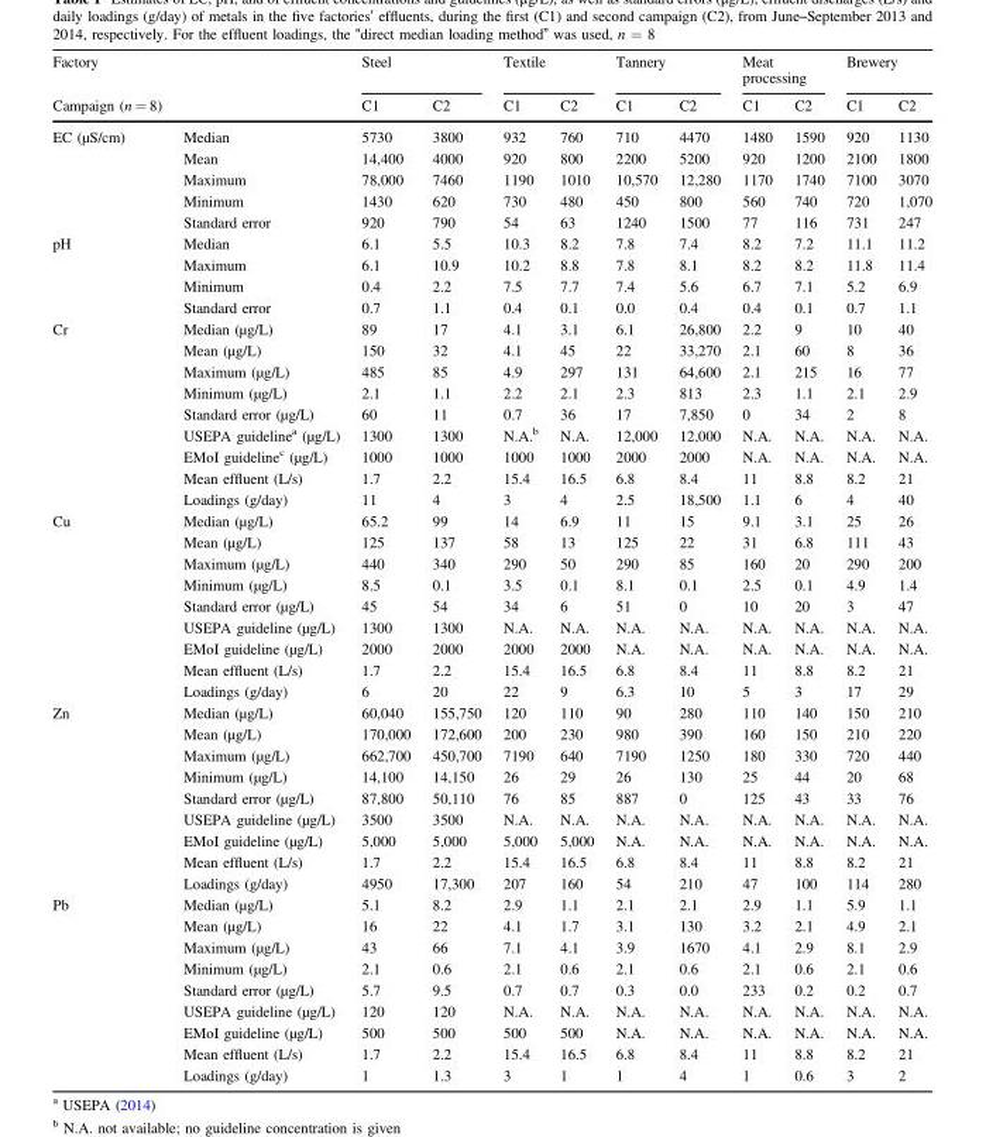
<table><thead><tr><td rowspan="2">Factory Campaign (n = 8)</td><td rowspan="2"></td><td colspan="2">Steel</td><td colspan="2">Textile</td><td colspan="2">Tannery</td><td colspan="2">Meat processing</td><td colspan="2">Brewery</td></tr><tr><td>C1</td><td>C2</td><td>C1</td><td>C2</td><td>C1</td><td>C2</td><td>C1</td><td>C2</td><td>C1</td><td>C2</td></tr></thead><tbody><tr><td rowspan="5">EC (µS/cm)</td><td>Median</td><td>5730</td><td>3800</td><td>932</td><td>760</td><td>710</td><td>4470</td><td>1480</td><td>1590</td><td>920</td><td>1130</td></tr><tr><td>Mean</td><td>14,400</td><td>4000</td><td>920</td><td>800</td><td>2200</td><td>5200</td><td>920</td><td>1200</td><td>2100</td><td>1800</td></tr><tr><td>Maximum</td><td>78,000</td><td>7460</td><td>1190</td><td>1010</td><td>10,570</td><td>12,280</td><td>1170</td><td>1740</td><td>7100</td><td>3070</td></tr><tr><td>Minimum</td><td>1430</td><td>620</td><td>730</td><td>480</td><td>450</td><td>800</td><td>560</td><td>740</td><td>720</td><td>1,070</td></tr><tr><td>Standard error</td><td>920</td><td>790</td><td>54</td><td>63</td><td>1240</td><td>1500</td><td>77</td><td>116</td><td>731</td><td>247</td></tr><tr><td rowspan="4">pH</td><td>Median</td><td>6.1</td><td>5.5</td><td>10.3</td><td>8.2</td><td>7.8</td><td>7.4</td><td>8.2</td><td>7.2</td><td>11.1</td><td>11.2</td></tr><tr><td>Maximum</td><td>6.1</td><td>10.9</td><td>10.2</td><td>8.8</td><td>7.8</td><td>8.1</td><td>8.2</td><td>8.2</td><td>11.8</td><td>11.4</td></tr><tr><td>Minimum</td><td>0.4</td><td>2.2</td><td>7.5</td><td>7.7</td><td>7.4</td><td>5.6</td><td>6.7</td><td>7.1</td><td>5.2</td><td>6.9</td></tr><tr><td>Standard error</td><td>0.7</td><td>1.1</td><td>0.4</td><td>0.1</td><td>0.0</td><td>0.4</td><td>0.4</td><td>0.1</td><td>0.7</td><td>1.1</td></tr><tr><td rowspan="9">Cr</td><td>Median (µg/L)</td><td>89</td><td>17</td><td>4.1</td><td>3.1</td><td>6.1</td><td>26,800</td><td>2.2</td><td>9</td><td>10</td><td>40</td></tr><tr><td>Mean (µg/L)</td><td>150</td><td>32</td><td>4.1</td><td>45</td><td>22</td><td>33,270</td><td>2.1</td><td>60</td><td>8</td><td>36</td></tr><tr><td>Maximum (µg/L)</td><td>485</td><td>85</td><td>4.9</td><td>297</td><td>131</td><td>64,600</td><td>2.1</td><td>215</td><td>16</td><td>77</td></tr><tr><td>Minimum (µg/L)</td><td>2.1</td><td>1.1</td><td>2.2</td><td>2.1</td><td>2.3</td><td>813</td><td>2.3</td><td>1.1</td><td>2.1</td><td>2.9</td></tr><tr><td>Standard error (µg/L)</td><td>60</td><td>11</td><td>0.7</td><td>36</td><td>17</td><td>7,850</td><td>0</td><td>34</td><td>2</td><td>8</td></tr><tr><td>USEPA guideline<sup>a</sup> (µg/L)</td><td>1300</td><td>1300</td><td>N.A.<sup>b</sup></td><td>N.A.</td><td>12,000</td><td>12,000</td><td>N.A.</td><td>N.A.</td><td>N.A.</td><td>N.A.</td></tr><tr><td>EMoI guideline<sup>c</sup> (µg/L)</td><td>1000</td><td>1000</td><td>1000</td><td>1000</td><td>2000</td><td>2000</td><td>N.A.</td><td>N.A.</td><td>N.A.</td><td>N.A.</td></tr><tr><td>Mean effluent (L/s)</td><td>1.7</td><td>2.2</td><td>15.4</td><td>16.5</td><td>6.8</td><td>8.4</td><td>11</td><td>8.8</td><td>8.2</td><td>21</td></tr><tr><td>Loadings (g/day)</td><td>11</td><td>4</td><td>3</td><td>4</td><td>2.5</td><td>18,500</td><td>1.1</td><td>6</td><td>4</td><td>40</td></tr><tr><td rowspan="9">Cu</td><td>Median (µg/L)</td><td>65.2</td><td>99</td><td>14</td><td>6.9</td><td>11</td><td>15</td><td>9.1</td><td>3.1</td><td>25</td><td>26</td></tr><tr><td>Mean (µg/L)</td><td>125</td><td>137</td><td>58</td><td>13</td><td>125</td><td>22</td><td>31</td><td>6.8</td><td>111</td><td>43</td></tr><tr><td>Maximum (µg/L)</td><td>440</td><td>340</td><td>290</td><td>50</td><td>290</td><td>85</td><td>160</td><td>20</td><td>290</td><td>200</td></tr><tr><td>Minimum (µg/L)</td><td>8.5</td><td>0.1</td><td>3.5</td><td>0.1</td><td>8.1</td><td>0.1</td><td>2.5</td><td>0.1</td><td>4.9</td><td>1.4</td></tr><tr><td>Standard error (µg/L)</td><td>45</td><td>54</td><td>34</td><td>6</td><td>51</td><td>0</td><td>10</td><td>20</td><td>3</td><td>47</td></tr><tr><td>USEPA guideline (µg/L)</td><td>1300</td><td>1300</td><td>N.A.</td><td>N.A.</td><td>N.A.</td><td>N.A.</td><td>N.A.</td><td>N.A.</td><td>N.A.</td><td>N.A.</td></tr><tr><td>EMoI guideline (µg/L)</td><td>2000</td><td>2000</td><td>2000</td><td>2000</td><td>N.A.</td><td>N.A.</td><td>N.A.</td><td>N.A.</td><td>N.A.</td><td>N.A.</td></tr><tr><td>Mean effluent (L/s)</td><td>1.7</td><td>2.2</td><td>15.4</td><td>16.5</td><td>6.8</td><td>8.4</td><td>11</td><td>8.8</td><td>8.2</td><td>21</td></tr><tr><td>Loadings (g/day)</td><td>6</td><td>20</td><td>22</td><td>9</td><td>6.3</td><td>10</td><td>5</td><td>3</td><td>17</td><td>29</td></tr><tr><td rowspan="9">Zn</td><td>Median (µg/L)</td><td>60,040</td><td>155,750</td><td>120</td><td>110</td><td>90</td><td>280</td><td>110</td><td>140</td><td>150</td><td>210</td></tr><tr><td>Mean (µg/L)</td><td>170,000</td><td>172,600</td><td>200</td><td>230</td><td>980</td><td>390</td><td>160</td><td>150</td><td>210</td><td>220</td></tr><tr><td>Maximum (µg/L)</td><td>662,700</td><td>450,700</td><td>7190</td><td>640</td><td>7190</td><td>1250</td><td>180</td><td>330</td><td>720</td><td>440</td></tr><tr><td>Minimum (µg/L)</td><td>14,100</td><td>14,150</td><td>26</td><td>29</td><td>26</td><td>130</td><td>25</td><td>44</td><td>20</td><td>68</td></tr><tr><td>Standard error (µg/L)</td><td>87,800</td><td>50,110</td><td>76</td><td>85</td><td>887</td><td>0</td><td>125</td><td>43</td><td>33</td><td>76</td></tr><tr><td>USEPA guideline (µg/L)</td><td>3500</td><td>3500</td><td>N.A.</td><td>N.A.</td><td>N.A.</td><td>N.A.</td><td>N.A.</td><td>N.A.</td><td>N.A.</td><td>N.A.</td></tr><tr><td>EMoI guideline (µg/L)</td><td>5,000</td><td>5,000</td><td>5,000</td><td>5,000</td><td>N.A.</td><td>N.A.</td><td>N.A.</td><td>N.A.</td><td>N.A.</td><td>N.A.</td></tr><tr><td>Mean effluent (L/s)</td><td>1.7</td><td>2.2</td><td>15.4</td><td>16.5</td><td>6.8</td><td>8.4</td><td>11</td><td>8.8</td><td>8.2</td><td>21</td></tr><tr><td>Loadings (g/day)</td><td>4950</td><td>17,300</td><td>207</td><td>160</td><td>54</td><td>210</td><td>47</td><td>100</td><td>114</td><td>280</td></tr><tr><td rowspan="9">Pb</td><td>Median (µg/L)</td><td>5.1</td><td>8.2</td><td>2.9</td><td>1.1</td><td>2.1</td><td>2.1</td><td>2.9</td><td>1.1</td><td>5.9</td><td>1.1</td></tr><tr><td>Mean (µg/L)</td><td>16</td><td>22</td><td>4.1</td><td>1.7</td><td>3.1</td><td>130</td><td>3.2</td><td>2.1</td><td>4.9</td><td>2.1</td></tr><tr><td>Maximum (µg/L)</td><td>43</td><td>66</td><td>7.1</td><td>4.1</td><td>3.9</td><td>1670</td><td>4.1</td><td>2.9</td><td>8.1</td><td>2.9</td></tr><tr><td>Minimum (µg/L)</td><td>2.1</td><td>0.6</td><td>2.1</td><td>0.6</td><td>2.1</td><td>0.6</td><td>2.1</td><td>0.6</td><td>2.1</td><td>0.6</td></tr><tr><td>Standard error (µg/L)</td><td>5.7</td><td>9.5</td><td>0.7</td><td>0.7</td><td>0.3</td><td>0.0</td><td>233</td><td>0.2</td><td>0.2</td><td>0.7</td></tr><tr><td>USEPA guideline (µg/L)</td><td>120</td><td>120</td><td>N.A.</td><td>N.A.</td><td>N.A.</td><td>N.A.</td><td>N.A.</td><td>N.A.</td><td>N.A.</td><td>N.A.</td></tr><tr><td>EMoI guideline (µg/L)</td><td>500</td><td>500</td><td>500</td><td>500</td><td>N.A.</td><td>N.A.</td><td>N.A.</td><td>N.A.</td><td>N.A.</td><td>N.A.</td></tr><tr><td>Mean effluent (L/s)</td><td>1.7</td><td>2.2</td><td>15.4</td><td>16.5</td><td>6.8</td><td>8.4</td><td>11</td><td>8.8</td><td>8.2</td><td>21</td></tr><tr><td>Loadings (g/day)</td><td>1</td><td>1.3</td><td>3</td><td>1</td><td>1</td><td>4</td><td>1</td><td>0.6</td><td>3</td><td>2</td></tr></tbody></table>